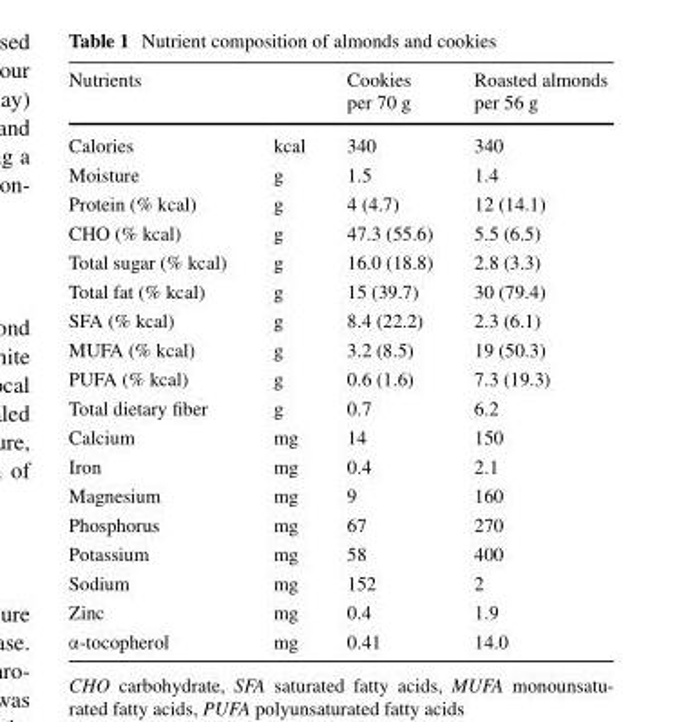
<table><thead><tr><td colspan="2">Nutrients</td><td rowspan="2">Cookies per 70 g 340</td><td rowspan="2">Roasted almonds per 56 g 340</td></tr><tr><td>Calories</td><td>kcal</td></tr></thead><tbody><tr><td>Moisture</td><td>g</td><td>1.5</td><td>1.4</td></tr><tr><td>Protein (% kcal)</td><td>g</td><td>4 (4.7)</td><td>12 (14.1)</td></tr><tr><td>CHO (% kcal)</td><td>g</td><td>47.3 (55.6)</td><td>5.5 (6.5)</td></tr><tr><td>Total sugar (% kcal)</td><td>g</td><td>16.0 (18.8)</td><td>2.8 (3.3)</td></tr><tr><td>Total fat (% kcal)</td><td>g</td><td>15 (39.7)</td><td>30 (79.4)</td></tr><tr><td>SFA (% kcal)</td><td>g</td><td>8.4 (22.2)</td><td>2.3 (6.1)</td></tr><tr><td>MUFA (% kcal)</td><td>g</td><td>3.2 (8.5)</td><td>19 (50.3)</td></tr><tr><td>PUFA (% kcal)</td><td>g</td><td>0.6 (1.6)</td><td>7.3 (19.3)</td></tr><tr><td>Total dietary fiber</td><td>g</td><td>0.7</td><td>6.2</td></tr><tr><td>Calcium</td><td>mg</td><td>14</td><td>150</td></tr><tr><td>Iron</td><td>mg</td><td>0.4</td><td>2.1</td></tr><tr><td>Magnesium</td><td>mg</td><td>9</td><td>160</td></tr><tr><td>Phosphorus</td><td>mg</td><td>67</td><td>270</td></tr><tr><td>Potassium</td><td>mg</td><td>58</td><td>400</td></tr><tr><td>Sodium</td><td>mg</td><td>152</td><td>2</td></tr><tr><td>Zinc</td><td>mg</td><td>0.4</td><td>1.9</td></tr><tr><td>α-tocopherol</td><td>mg</td><td>0.41</td><td>14.0</td></tr></tbody></table>